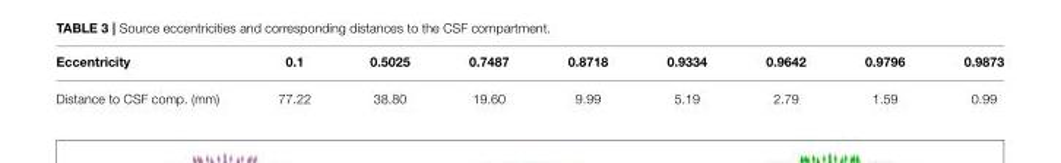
<table><thead><tr><td>Eccentricity</td><td>0.1</td><td>0.5025</td><td>0.7487</td><td>0.8718</td><td>0.9334</td><td>0.9642</td><td>0.9796</td><td>0.9873</td></tr></thead><tbody><tr><td>Distance to CSF comp. (mm)</td><td>77.22</td><td>38.80</td><td>19.60</td><td>9.99</td><td>5.19</td><td>2.79</td><td>1.59</td><td>0.99</td></tr></tbody></table>